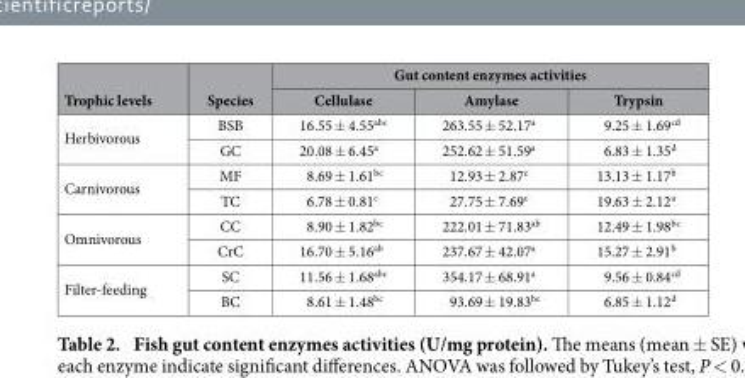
<table><thead><tr><td rowspan="2">Trophic levels</td><td rowspan="2">Species</td><td colspan="3">Gut content enzymes activities</td></tr><tr><td>Cellulase</td><td>Amylase</td><td>Trypsin</td></tr></thead><tbody><tr><td rowspan="2">Herbivorous</td><td>BSB</td><td>16.55 ± 4.55<sup>abc</sup></td><td>263.55 ± 52.17<sup>a</sup></td><td>9.25 ± 1.69<sup>cd</sup></td></tr><tr><td>GC</td><td>20.08 ± 6.45<sup>a</sup></td><td>252.62 ± 51.59<sup>a</sup></td><td>6.83 ± 1.35<sup>d</sup></td></tr><tr><td rowspan="2">Carnivorous</td><td>MF</td><td>8.69 ± 1.61<sup>bc</sup></td><td>12.93 ± 2.87<sup>c</sup></td><td>13.13 ± 1.17<sup>b</sup></td></tr><tr><td>TC</td><td>6.78 ± 0.81<sup>c</sup></td><td>27.75 ± 7.69<sup>c</sup></td><td>19.63 ± 2.12<sup>a</sup></td></tr><tr><td rowspan="2">Omnivorous</td><td>CC</td><td>8.90 ± 1.82<sup>bc</sup></td><td>222.01 ± 71.83<sup>ab</sup></td><td>12.49 ± 1.98<sup>bc</sup></td></tr><tr><td>CrC</td><td>16.70 ± 5.16<sup>ab</sup></td><td>237.67 ± 42.07<sup>a</sup></td><td>15.27 ± 2.91<sup>b</sup></td></tr><tr><td rowspan="2">Filter-feeding</td><td>SC</td><td>11.56 ± 1.68<sup>abc</sup></td><td>354.17 ± 68.91<sup>a</sup></td><td>9.56 ± 0.84<sup>cd</sup></td></tr><tr><td>BC</td><td>8.61 ± 1.48<sup>bc</sup></td><td>93.69 ± 19.83<sup>bc</sup></td><td>6.85 ± 1.12<sup>d</sup></td></tr></tbody></table>